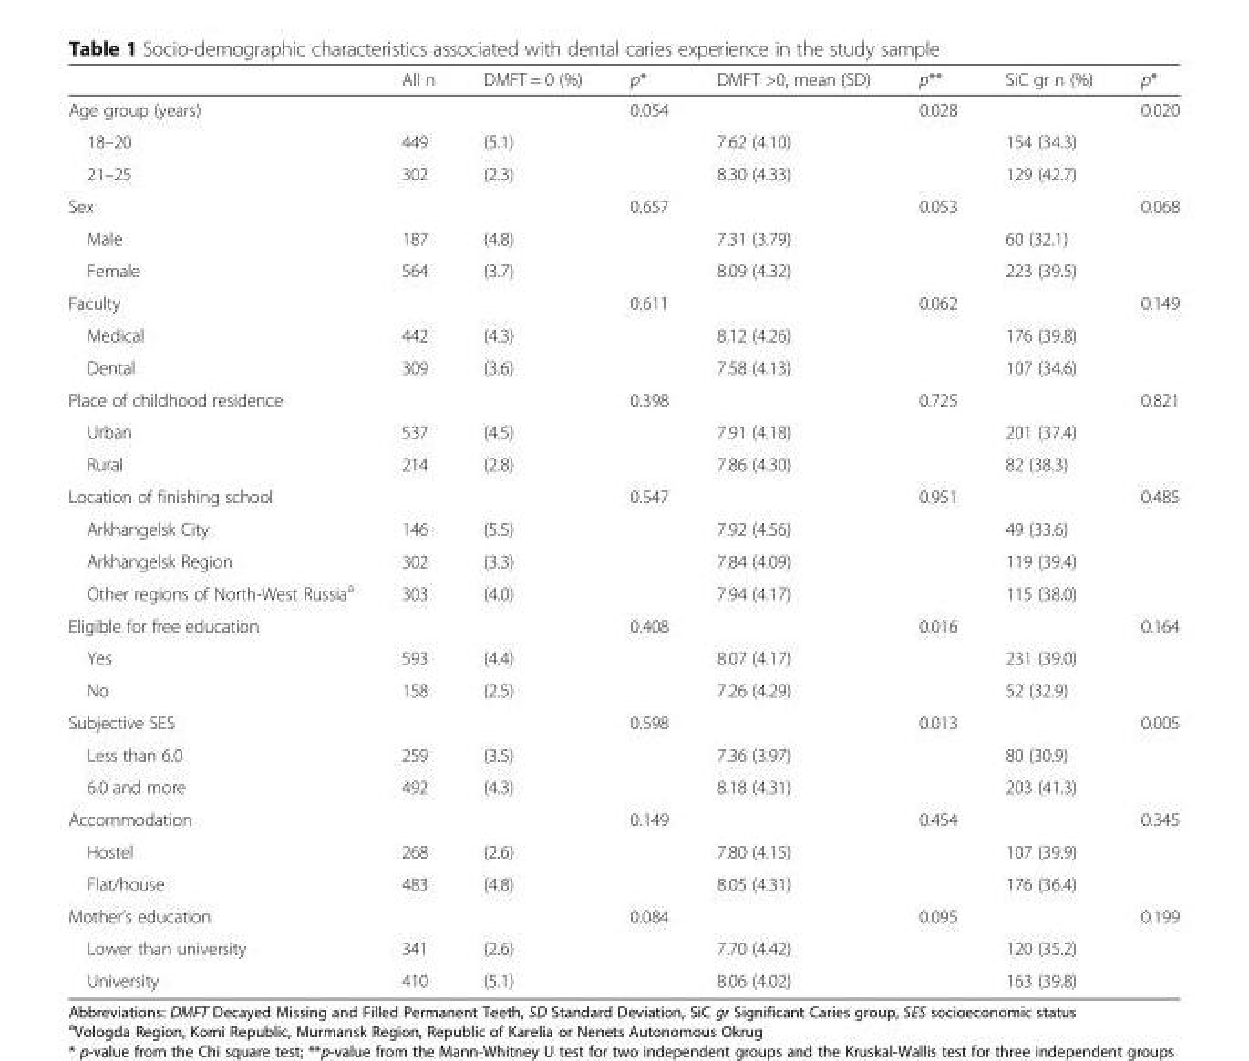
<table><thead><tr><td></td><td>All n</td><td>DMFT = 0 (%)</td><td>p*</td><td>DMFT &gt;0, mean (SD)</td><td>p**</td><td>SiC gr n (%)</td><td>p*</td></tr></thead><tbody><tr><td>Age group (years)</td><td></td><td></td><td>0.054</td><td></td><td>0.028</td><td></td><td>0.020</td></tr><tr><td>18–20</td><td>449</td><td>(5.1)</td><td></td><td>7.62 (4.10)</td><td></td><td>154 (34.3)</td><td></td></tr><tr><td>21–25</td><td>302</td><td>(2.3)</td><td></td><td>8.30 (4.33)</td><td></td><td>129 (42.7)</td><td></td></tr><tr><td>Sex</td><td></td><td></td><td>0.657</td><td></td><td>0.053</td><td></td><td>0.068</td></tr><tr><td>Male</td><td>187</td><td>(4.8)</td><td></td><td>7.31 (3.79)</td><td></td><td>60 (32.1)</td><td></td></tr><tr><td>Female</td><td>564</td><td>(3.7)</td><td></td><td>8.09 (4.32)</td><td></td><td>223 (39.5)</td><td></td></tr><tr><td>Faculty</td><td></td><td></td><td>0.611</td><td></td><td>0.062</td><td></td><td>0.149</td></tr><tr><td>Medical</td><td>442</td><td>(4.3)</td><td></td><td>8.12 (4.26)</td><td></td><td>176 (39.8)</td><td></td></tr><tr><td>Dental</td><td>309</td><td>(3.6)</td><td></td><td>7.58 (4.13)</td><td></td><td>107 (34.6)</td><td></td></tr><tr><td>Place of childhood residence</td><td></td><td></td><td>0.398</td><td></td><td>0.725</td><td></td><td>0.821</td></tr><tr><td>Urban</td><td>537</td><td>(4.5)</td><td></td><td>7.91 (4.18)</td><td></td><td>201 (37.4)</td><td></td></tr><tr><td>Rural</td><td>214</td><td>(2.8)</td><td></td><td>7.86 (4.30)</td><td></td><td>82 (38.3)</td><td></td></tr><tr><td>Location of finishing school</td><td></td><td></td><td>0.547</td><td></td><td>0.951</td><td></td><td>0.485</td></tr><tr><td>Arkhangelsk City</td><td>146</td><td>(5.5)</td><td></td><td>7.92 (4.56)</td><td></td><td>49 (33.6)</td><td></td></tr><tr><td>Arkhangelsk Region</td><td>302</td><td>(3.3)</td><td></td><td>7.84 (4.09)</td><td></td><td>119 (39.4)</td><td></td></tr><tr><td>Other regions of North-West Russia<sup>a</sup></td><td>303</td><td>(4.0)</td><td></td><td>7.94 (4.17)</td><td></td><td>115 (38.0)</td><td></td></tr><tr><td>Eligible for free education</td><td></td><td></td><td>0.408</td><td></td><td>0.016</td><td></td><td>0.164</td></tr><tr><td>Yes</td><td>593</td><td>(4.4)</td><td></td><td>8.07 (4.17)</td><td></td><td>231 (39.0)</td><td></td></tr><tr><td>No</td><td>158</td><td>(2.5)</td><td></td><td>7.26 (4.29)</td><td></td><td>52 (32.9)</td><td></td></tr><tr><td>Subjective SES</td><td></td><td></td><td>0.598</td><td></td><td>0.013</td><td></td><td>0.005</td></tr><tr><td>Less than 6.0</td><td>259</td><td>(3.5)</td><td></td><td>7.36 (3.97)</td><td></td><td>80 (30.9)</td><td></td></tr><tr><td>6.0 and more</td><td>492</td><td>(4.3)</td><td></td><td>8.18 (4.31)</td><td></td><td>203 (41.3)</td><td></td></tr><tr><td>Accommodation</td><td></td><td></td><td>0.149</td><td></td><td>0.454</td><td></td><td>0.345</td></tr><tr><td>Hostel</td><td>268</td><td>(2.6)</td><td></td><td>7.80 (4.15)</td><td></td><td>107 (39.9)</td><td></td></tr><tr><td>Flat/house</td><td>483</td><td>(4.8)</td><td></td><td>8.05 (4.31)</td><td></td><td>176 (36.4)</td><td></td></tr><tr><td>Mother’s education</td><td></td><td></td><td>0.084</td><td></td><td>0.095</td><td></td><td>0.199</td></tr><tr><td>Lower than university</td><td>341</td><td>(2.6)</td><td></td><td>7.70 (4.42)</td><td></td><td>120 (35.2)</td><td></td></tr><tr><td>University</td><td>410</td><td>(5.1)</td><td></td><td>8.06 (4.02)</td><td></td><td>163 (39.8)</td><td></td></tr></tbody></table>